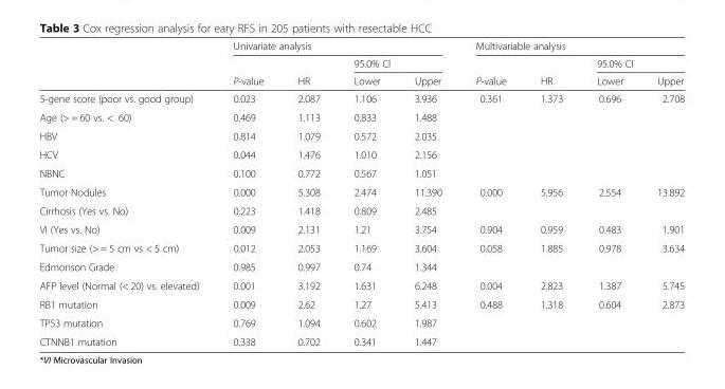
<table><thead><tr><td rowspan="3"></td><td colspan="4">Univariate analysis</td><td colspan="4">Multivariable analysis</td></tr><tr><td rowspan="2">P-value</td><td rowspan="2">HR</td><td colspan="2">95.0% CI</td><td rowspan="2">P-value</td><td rowspan="2">HR</td><td colspan="2">95.0% CI</td></tr><tr><td>Lower</td><td>Upper</td><td>Lower</td><td>Upper</td></tr></thead><tbody><tr><td>5-gene score (poor vs. good group)</td><td>0.023</td><td>2.087</td><td>1.106</td><td>3.936</td><td>0.361</td><td>1.373</td><td>0.696</td><td>2.708</td></tr><tr><td>Age (&gt; = 60 vs. &lt; 60)</td><td>0.469</td><td>1.113</td><td>0.833</td><td>1.488</td><td></td><td></td><td></td><td></td></tr><tr><td>HBV</td><td>0.814</td><td>1.079</td><td>0.572</td><td>2.035</td><td></td><td></td><td></td><td></td></tr><tr><td>HCV</td><td>0.044</td><td>1.476</td><td>1.010</td><td>2.156</td><td></td><td></td><td></td><td></td></tr><tr><td>NBNC</td><td>0.100</td><td>0.772</td><td>0.567</td><td>1.051</td><td></td><td></td><td></td><td></td></tr><tr><td>Tumor Nodules</td><td>0.000</td><td>5.308</td><td>2.474</td><td>11.390</td><td>0.000</td><td>5.956</td><td>2.554</td><td>13.892</td></tr><tr><td>Cirrhosis (Yes vs. No)</td><td>0.223</td><td>1.418</td><td>0.809</td><td>2.485</td><td></td><td></td><td></td><td></td></tr><tr><td>VI (Yes vs. No)</td><td>0.009</td><td>2.131</td><td>1.21</td><td>3.754</td><td>0.904</td><td>0.959</td><td>0.483</td><td>1.901</td></tr><tr><td>Tumor size (&gt; = 5 cm vs &lt; 5 cm)</td><td>0.012</td><td>2.053</td><td>1.169</td><td>3.604</td><td>0.058</td><td>1.885</td><td>0.978</td><td>3.634</td></tr><tr><td>Edmonson Grade</td><td>0.985</td><td>0.997</td><td>0.74</td><td>1.344</td><td></td><td></td><td></td><td></td></tr><tr><td>AFP level (Normal (&lt; 20) vs. elevated)</td><td>0.001</td><td>3.192</td><td>1.631</td><td>6.248</td><td>0.004</td><td>2.823</td><td>1.387</td><td>5.745</td></tr><tr><td>RB1 mutation</td><td>0.009</td><td>2.62</td><td>1.27</td><td>5.413</td><td>0.488</td><td>1.318</td><td>0.604</td><td>2.873</td></tr><tr><td>TP53 mutation</td><td>0.769</td><td>1.094</td><td>0.602</td><td>1.987</td><td></td><td></td><td></td><td></td></tr><tr><td>CTNNB1 mutation</td><td>0.338</td><td>0.702</td><td>0.341</td><td>1.447</td><td></td><td></td><td></td><td></td></tr></tbody></table>